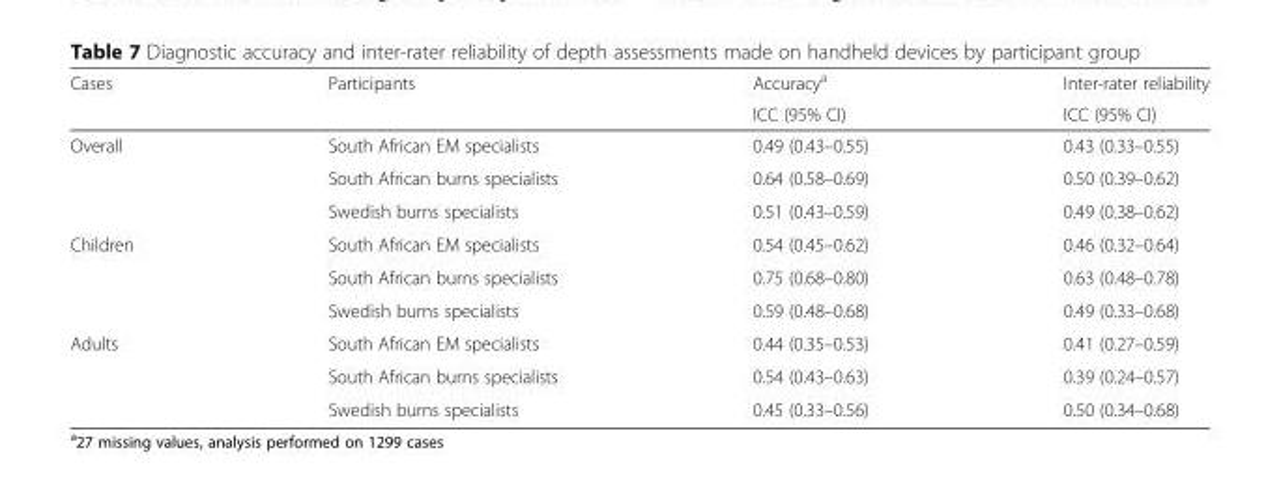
<table><thead><tr><td rowspan="2">Cases</td><td rowspan="2">Participants</td><td rowspan="2">Accuracy<sup>a</sup> ICC (95% CI)</td><td rowspan="2">Inter-rater reliability ICC (95% CI)</td></tr><tr></tr></thead><tbody><tr><td rowspan="3">Overall</td><td>South African EM specialists</td><td>0.49 (0.43–0.55)</td><td>0.43 (0.33–0.55)</td></tr><tr><td>South African burns specialists</td><td>0.64 (0.58–0.69)</td><td>0.50 (0.39–0.62)</td></tr><tr><td>Swedish burns specialists</td><td>0.51 (0.43–0.59)</td><td>0.49 (0.38–0.62)</td></tr><tr><td rowspan="3">Children</td><td>South African EM specialists</td><td>0.54 (0.45–0.62)</td><td>0.46 (0.32–0.64)</td></tr><tr><td>South African burns specialists</td><td>0.75 (0.68–0.80)</td><td>0.63 (0.48–0.78)</td></tr><tr><td>Swedish burns specialists</td><td>0.59 (0.48–0.68)</td><td>0.49 (0.33–0.68)</td></tr><tr><td rowspan="3">Adults</td><td>South African EM specialists</td><td>0.44 (0.35–0.53)</td><td>0.41 (0.27–0.59)</td></tr><tr><td>South African burns specialists</td><td>0.54 (0.43–0.63)</td><td>0.39 (0.24–0.57)</td></tr><tr><td>Swedish burns specialists</td><td>0.45 (0.33–0.56)</td><td>0.50 (0.34–0.68)</td></tr></tbody></table>